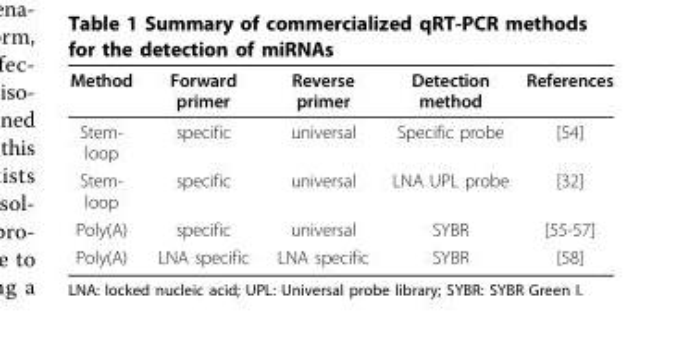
<table><thead><tr><td>Method</td><td>Forward primer</td><td>Reverse primer</td><td>Detection method</td><td>References</td></tr></thead><tbody><tr><td>Stem- loop</td><td>specific</td><td>universal</td><td>Specific probe</td><td>[54]</td></tr><tr><td>Stem- loop</td><td>specific</td><td>universal</td><td>LNA UPL probe</td><td>[32]</td></tr><tr><td>Poly(A)</td><td>specific</td><td>universal</td><td>SYBR</td><td>[55-57]</td></tr><tr><td>Poly(A)</td><td>LNA specific</td><td>LNA specific</td><td>SYBR</td><td>[58]</td></tr></tbody></table>